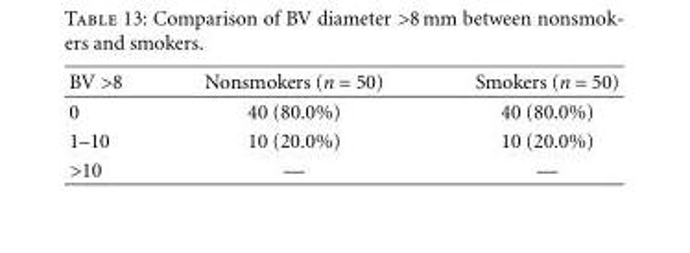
<table><thead><tr><td>BV &gt;8</td><td>Nonsmokers (n = 50)</td><td>Smokers (n = 50)</td></tr></thead><tbody><tr><td>0</td><td>40 (80.0%)</td><td>40 (80.0%)</td></tr><tr><td>1–10</td><td>10 (20.0%)</td><td>10 (20.0%)</td></tr><tr><td>&gt;10</td><td>—</td><td>—</td></tr></tbody></table>